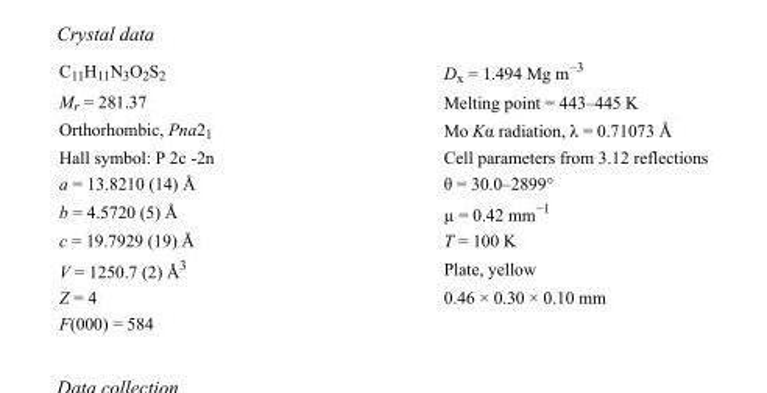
<table><tbody><tr><td>C<sub>11</sub>H<sub>11</sub>N<sub>3</sub>O<sub>2</sub>S<sub>2</sub></td><td>D<sub>x</sub> = 1.494 Mg m<sup>−3</sup></td></tr><tr><td>M<sub>r</sub> = 281.37</td><td>Melting point = 443–445 K</td></tr><tr><td>Orthorhombic, Pna2<sub>1</sub></td><td>Mo Kα radiation, λ = 0.71073 Å</td></tr><tr><td>Hall symbol: P 2c -2n</td><td>Cell parameters from 3.12 reflections</td></tr><tr><td>a = 13.8210 (14) Å</td><td>θ = 30.0–2899°</td></tr><tr><td>b = 4.5720 (5) Å</td><td>µ = 0.42 mm<sup>−1</sup></td></tr><tr><td>c = 19.7929 (19) Å</td><td>T = 100 K</td></tr><tr><td>V = 1250.7 (2) Å<sup>3</sup></td><td>Plate, yellow</td></tr><tr><td>Z = 4</td><td>0.46 × 0.30 × 0.10 mm</td></tr><tr><td>F(000) = 584</td><td></td></tr></tbody></table>